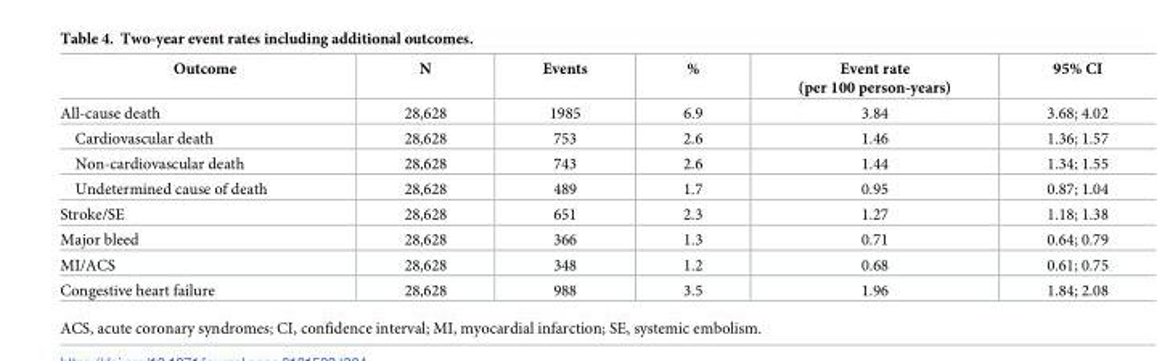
<table><thead><tr><td>Outcome</td><td>N</td><td>Events</td><td>%</td><td>Event rate (per 100 person-years)</td><td>95% CI</td></tr></thead><tbody><tr><td>All-cause death</td><td>28,628</td><td>1985</td><td>6.9</td><td>3.84</td><td>3.68; 4.02</td></tr><tr><td>Cardiovascular death</td><td>28,628</td><td>753</td><td>2.6</td><td>1.46</td><td>1.36; 1.57</td></tr><tr><td>Non-cardiovascular death</td><td>28,628</td><td>743</td><td>2.6</td><td>1.44</td><td>1.34; 1.55</td></tr><tr><td>Undetermined cause of death</td><td>28,628</td><td>489</td><td>1.7</td><td>0.95</td><td>0.87; 1.04</td></tr><tr><td>Stroke/SE</td><td>28,628</td><td>651</td><td>2.3</td><td>1.27</td><td>1.18; 1.38</td></tr><tr><td>Major bleed</td><td>28,628</td><td>366</td><td>1.3</td><td>0.71</td><td>0.64; 0.79</td></tr><tr><td>MI/ACS</td><td>28,628</td><td>348</td><td>1.2</td><td>0.68</td><td>0.61; 0.75</td></tr><tr><td>Congestive heart failure</td><td>28,628</td><td>988</td><td>3.5</td><td>1.96</td><td>1.84; 2.08</td></tr></tbody></table>